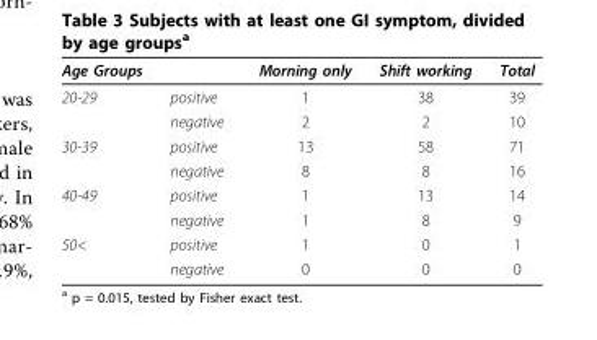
<table><thead><tr><td>Age Groups</td><td></td><td>Morning only</td><td>Shift working</td><td>Total</td></tr></thead><tbody><tr><td rowspan="2">20-29</td><td>positive</td><td>1</td><td>38</td><td>39</td></tr><tr><td>negative</td><td>2</td><td>2</td><td>10</td></tr><tr><td rowspan="2">30-39</td><td>positive</td><td>13</td><td>58</td><td>71</td></tr><tr><td>negative</td><td>8</td><td>8</td><td>16</td></tr><tr><td rowspan="2">40-49</td><td>positive</td><td>1</td><td>13</td><td>14</td></tr><tr><td>negative</td><td>1</td><td>8</td><td>9</td></tr><tr><td rowspan="2">50&lt;</td><td>positive</td><td>1</td><td>0</td><td>1</td></tr><tr><td>negative</td><td>0</td><td>0</td><td>0</td></tr></tbody></table>